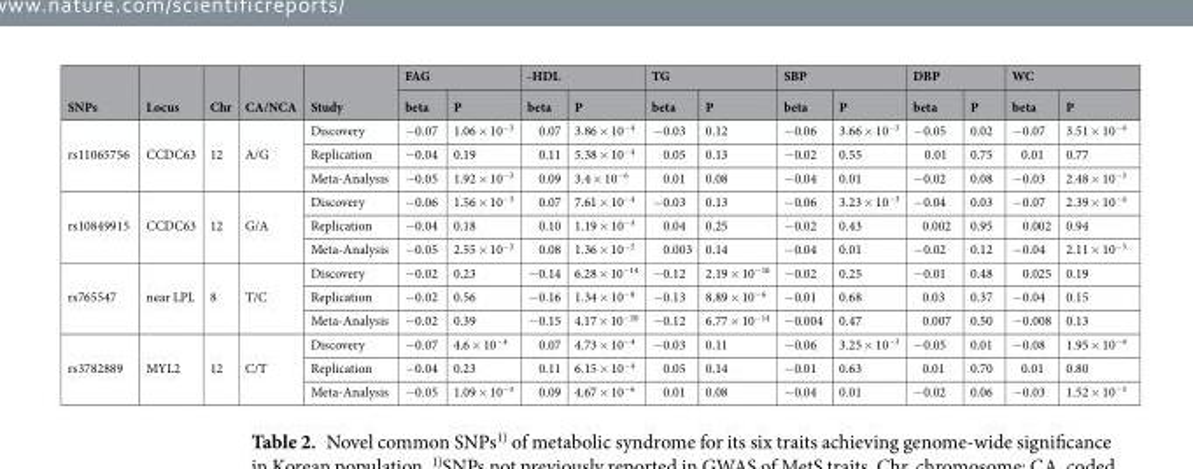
<table><thead><tr><td rowspan="2">SNPs</td><td rowspan="2">Locus</td><td rowspan="2">Chr</td><td rowspan="2">CA/NCA</td><td rowspan="2">Study</td><td colspan="2">FAG</td><td colspan="2">-HDL</td><td colspan="2">TG</td><td colspan="2">SBP</td><td colspan="2">DBP</td><td colspan="2">WC</td></tr><tr><td>beta</td><td>P</td><td>beta</td><td>P</td><td>beta</td><td>P</td><td>beta</td><td>P</td><td>beta</td><td>P</td><td>beta</td><td>P</td></tr></thead><tbody><tr><td rowspan="3">rs11065756</td><td rowspan="3">CCDC63</td><td rowspan="3">12</td><td rowspan="3">A/G</td><td>Discovery</td><td>−0.07</td><td>1.06 × 10<sup>−3</sup></td><td>0.07</td><td>3.86 × 10<sup>−4</sup></td><td>−0.03</td><td>0.12</td><td>−0.06</td><td>3.66 × 10<sup>−3</sup></td><td>−0.05</td><td>0.02</td><td>−0.07</td><td>3.51 × 10<sup>−4</sup></td></tr><tr><td>Replication</td><td>−0.04</td><td>0.19</td><td>0.11</td><td>5.38 × 10<sup>−4</sup></td><td>0.05</td><td>0.13</td><td>−0.02</td><td>0.55</td><td>0.01</td><td>0.75</td><td>0.01</td><td>0.77</td></tr><tr><td>Meta-Analysis</td><td>−0.05</td><td>1.92 × 10<sup>−3</sup></td><td>0.09</td><td>3.4 × 10<sup>−6</sup></td><td>0.01</td><td>0.08</td><td>−0.04</td><td>0.01</td><td>−0.02</td><td>0.08</td><td>−0.03</td><td>2.48 × 10<sup>−3</sup></td></tr><tr><td rowspan="3">rs10849915</td><td rowspan="3">CCDC63</td><td rowspan="3">12</td><td rowspan="3">G/A</td><td>Discovery</td><td>−0.06</td><td>1.56 × 10<sup>−3</sup></td><td>0.07</td><td>7.61 × 10<sup>−4</sup></td><td>−0.03</td><td>0.13</td><td>−0.06</td><td>3.23 × 10<sup>−3</sup></td><td>−0.04</td><td>0.03</td><td>−0.07</td><td>2.39 × 10<sup>−4</sup></td></tr><tr><td>Replication</td><td>−0.04</td><td>0.18</td><td>0.10</td><td>1.19 × 10<sup>−3</sup></td><td>0.04</td><td>0.25</td><td>−0.02</td><td>0.43</td><td>0.002</td><td>0.95</td><td>0.002</td><td>0.94</td></tr><tr><td>Meta-Analysis</td><td>−0.05</td><td>2.55 × 10<sup>−3</sup></td><td>0.08</td><td>1.36 × 10<sup>−5</sup></td><td>0.003</td><td>0.14</td><td>−0.04</td><td>0.01</td><td>−0.02</td><td>0.12</td><td>−0.04</td><td>2.11 × 10<sup>−3</sup></td></tr><tr><td rowspan="3">rs765547</td><td rowspan="3">near LPL</td><td rowspan="3">8</td><td rowspan="3">T/C</td><td>Discovery</td><td>−0.02</td><td>0.23</td><td>−0.14</td><td>6.28 × 10<sup>−14</sup></td><td>−0.12</td><td>2.19 × 10<sup>−10</sup></td><td>−0.02</td><td>0.25</td><td>−0.01</td><td>0.48</td><td>0.025</td><td>0.19</td></tr><tr><td>Replication</td><td>−0.02</td><td>0.56</td><td>−0.16</td><td>1.34 × 10<sup>−8</sup></td><td>−0.13</td><td>8.89 × 10<sup>−6</sup></td><td>−0.01</td><td>0.68</td><td>0.03</td><td>0.37</td><td>−0.04</td><td>0.15</td></tr><tr><td>Meta-Analysis</td><td>−0.02</td><td>0.39</td><td>−0.15</td><td>4.17 × 10<sup>−20</sup></td><td>−0.12</td><td>6.77 × 10<sup>−14</sup></td><td>−0.004</td><td>0.47</td><td>0.007</td><td>0.50</td><td>−0.008</td><td>0.13</td></tr><tr><td rowspan="3">rs3782889</td><td rowspan="3">MYL2</td><td rowspan="3">12</td><td rowspan="3">C/T</td><td>Discovery</td><td>−0.07</td><td>4.6 × 10<sup>−4</sup></td><td>0.07</td><td>4.73 × 10<sup>−4</sup></td><td>−0.03</td><td>0.11</td><td>−0.06</td><td>3.25 × 10<sup>−3</sup></td><td>−0.05</td><td>0.01</td><td>−0.08</td><td>1.95 × 10<sup>−4</sup></td></tr><tr><td>Replication</td><td>−0.04</td><td>0.23</td><td>0.11</td><td>6.15 × 10<sup>−4</sup></td><td>0.05</td><td>0.14</td><td>−0.01</td><td>0.63</td><td>0.01</td><td>0.70</td><td>0.01</td><td>0.80</td></tr><tr><td>Meta-Analysis</td><td>−0.05</td><td>1.09 × 10<sup>−3</sup></td><td>0.09</td><td>4.67 × 10<sup>−6</sup></td><td>0.01</td><td>0.08</td><td>−0.04</td><td>0.01</td><td>−0.02</td><td>0.06</td><td>−0.03</td><td>1.52 × 10<sup>−3</sup></td></tr></tbody></table>